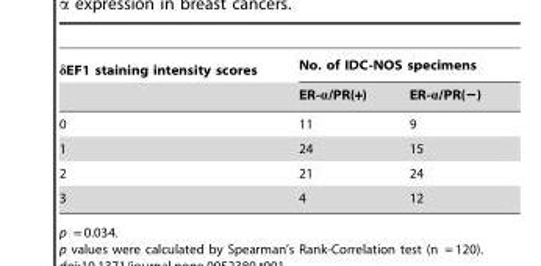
<table><thead><tr><td rowspan="2">δEF1 staining intensity scores</td><td colspan="2">No. of IDC-NOS specimens</td></tr><tr><td>ER-α/PR(+)</td><td>ER-α/PR(−)</td></tr></thead><tbody><tr><td>0</td><td>11</td><td>9</td></tr><tr><td>1</td><td>24</td><td>15</td></tr><tr><td>2</td><td>21</td><td>24</td></tr><tr><td>3</td><td>4</td><td>12</td></tr></tbody></table>